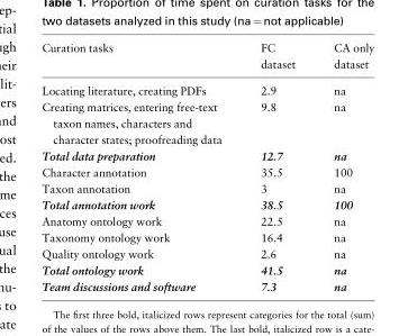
<table><thead><tr><td>Curation tasks</td><td>FC dataset</td><td>CA only dataset</td></tr></thead><tbody><tr><td>Locating literature, creating PDFs</td><td>2.9</td><td>na</td></tr><tr><td>Creating matrices, entering free-text taxon names, characters and character states; proofreading data</td><td>9.8</td><td>na</td></tr><tr><td>Total data preparation</td><td>12.7</td><td>na</td></tr><tr><td>Character annotation</td><td>35.5</td><td>100</td></tr><tr><td>Taxon annotation</td><td>3</td><td>na</td></tr><tr><td>Total annotation work</td><td>38.5</td><td>100</td></tr><tr><td>Anatomy ontology work</td><td>22.5</td><td>na</td></tr><tr><td>Taxonomy ontology work</td><td>16.4</td><td>na</td></tr><tr><td>Quality ontology work</td><td>2.6</td><td>na</td></tr><tr><td>Total ontology work</td><td>41.5</td><td>na</td></tr><tr><td>Team discussions and software</td><td>7.3</td><td>na</td></tr></tbody></table>